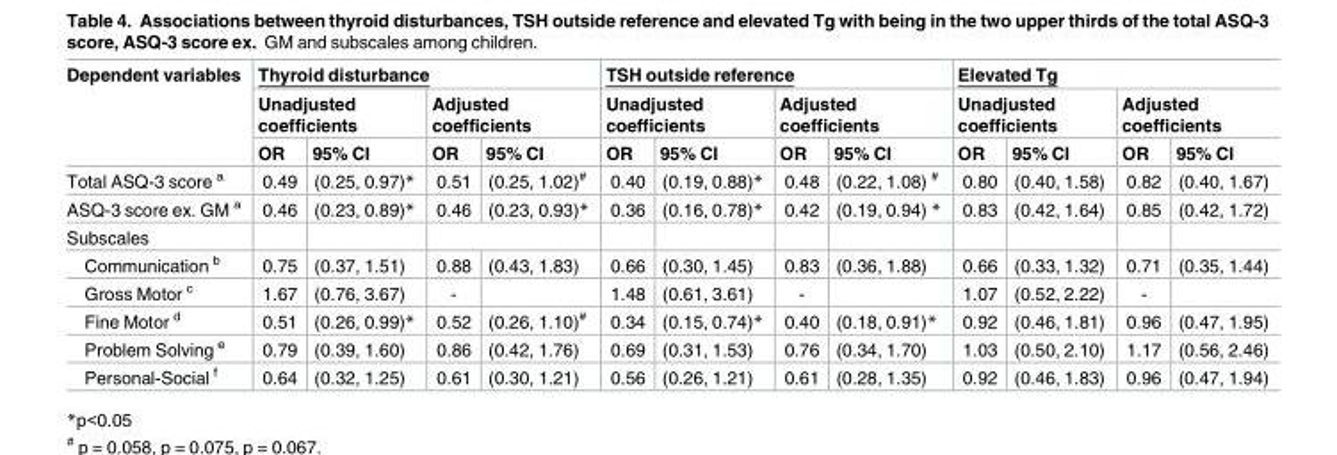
<table><thead><tr><td rowspan="3">Dependent variables</td><td colspan="4">Thyroid disturbance</td><td colspan="4">TSH outside reference</td><td colspan="4">Elevated Tg</td></tr><tr><td colspan="2">Unadjusted coefficients</td><td colspan="2">Adjusted coefficients</td><td colspan="2">Unadjusted coefficients</td><td colspan="2">Adjusted coefficients</td><td colspan="2">Unadjusted coefficients</td><td colspan="2">Adjusted coefficients</td></tr><tr><td>OR</td><td>95% CI</td><td>OR</td><td>95% CI</td><td>OR</td><td>95% CI</td><td>OR</td><td>95% CI</td><td>OR</td><td>95% CI</td><td>OR</td><td>95% CI</td></tr></thead><tbody><tr><td>Total ASQ-3 score <sup>a</sup></td><td>0.49</td><td>(0.25, 0.97)*</td><td>0.51</td><td>(0.25, 1.02)<sup>#</sup></td><td>0.40</td><td>(0.19, 0.88)*</td><td>0.48</td><td>(0.22, 1.08) <sup>#</sup></td><td>0.80</td><td>(0.40, 1.58)</td><td>0.82</td><td>(0.40, 1.67)</td></tr><tr><td>ASQ-3 score ex. GM <sup>a</sup></td><td>0.46</td><td>(0.23, 0.89)*</td><td>0.46</td><td>(0.23, 0.93)*</td><td>0.36</td><td>(0.16, 0.78)*</td><td>0.42</td><td>(0.19, 0.94) *</td><td>0.83</td><td>(0.42, 1.64)</td><td>0.85</td><td>(0.42, 1.72)</td></tr><tr><td colspan="13">Subscales</td></tr><tr><td>Communication <sup>b</sup></td><td>0.75</td><td>(0.37, 1.51)</td><td>0.88</td><td>(0.43, 1.83)</td><td>0.66</td><td>(0.30, 1.45)</td><td>0.83</td><td>(0.36, 1.88)</td><td>0.66</td><td>(0.33, 1.32)</td><td>0.71</td><td>(0.35, 1.44)</td></tr><tr><td>Gross Motor <sup>c</sup></td><td>1.67</td><td>(0.76, 3.67)</td><td>-</td><td></td><td>1.48</td><td>(0.61, 3.61)</td><td>-</td><td></td><td>1.07</td><td>(0.52, 2.22)</td><td>-</td><td></td></tr><tr><td>Fine Motor <sup>d</sup></td><td>0.51</td><td>(0.26, 0.99)*</td><td>0.52</td><td>(0.26, 1.10)<sup>#</sup></td><td>0.34</td><td>(0.15, 0.74)*</td><td>0.40</td><td>(0.18, 0.91)*</td><td>0.92</td><td>(0.46, 1.81)</td><td>0.96</td><td>(0.47, 1.95)</td></tr><tr><td>Problem Solving <sup>e</sup></td><td>0.79</td><td>(0.39, 1.60)</td><td>0.86</td><td>(0.42, 1.76)</td><td>0.69</td><td>(0.31, 1.53)</td><td>0.76</td><td>(0.34, 1.70)</td><td>1.03</td><td>(0.50, 2.10)</td><td>1.17</td><td>(0.56, 2.46)</td></tr><tr><td>Personal-Social <sup>f</sup></td><td>0.64</td><td>(0.32, 1.25)</td><td>0.61</td><td>(0.30, 1.21)</td><td>0.56</td><td>(0.26, 1.21)</td><td>0.61</td><td>(0.28, 1.35)</td><td>0.92</td><td>(0.46, 1.83)</td><td>0.96</td><td>(0.47, 1.94)</td></tr></tbody></table>